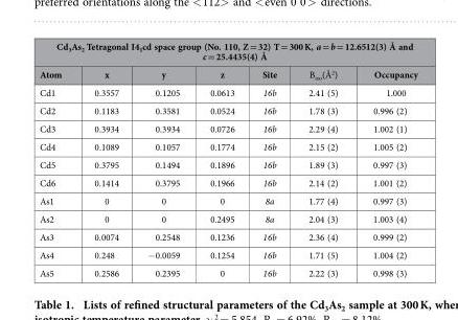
<table><thead><tr><td colspan="7">Cd<sub>3</sub>As<sub>2</sub> Tetragonal I4<sub>1</sub>cd space group (No. 110, Z = 32) T = 300 K, a = b = 12.6512(3) Å and c = 25.4435(4) Å</td></tr><tr><td>Atom</td><td>x</td><td>y</td><td>z</td><td>Site</td><td>B<sub>iso</sub>(Å<sup>2</sup>)</td><td>Occupancy</td></tr></thead><tbody><tr><td>Cd1</td><td>0.3557</td><td>0.1205</td><td>0.0613</td><td>16b</td><td>2.41 (5)</td><td>1.000</td></tr><tr><td>Cd2</td><td>0.1183</td><td>0.3581</td><td>0.0524</td><td>16b</td><td>1.78 (3)</td><td>0.996 (2)</td></tr><tr><td>Cd3</td><td>0.3934</td><td>0.3934</td><td>0.0726</td><td>16b</td><td>2.29 (4)</td><td>1.002 (1)</td></tr><tr><td>Cd4</td><td>0.1089</td><td>0.1057</td><td>0.1774</td><td>16b</td><td>2.15 (2)</td><td>1.005 (2)</td></tr><tr><td>Cd5</td><td>0.3795</td><td>0.1494</td><td>0.1896</td><td>16b</td><td>1.89 (3)</td><td>0.997 (3)</td></tr><tr><td>Cd6</td><td>0.1414</td><td>0.3795</td><td>0.1966</td><td>16b</td><td>2.14 (2)</td><td>1.001 (2)</td></tr><tr><td>As1</td><td>0</td><td>0</td><td>0</td><td>8a</td><td>1.77 (4)</td><td>0.997 (3)</td></tr><tr><td>As2</td><td>0</td><td>0</td><td>0.2495</td><td>8a</td><td>2.04 (3)</td><td>1.003 (4)</td></tr><tr><td>As3</td><td>0.0074</td><td>0.2548</td><td>0.1236</td><td>16b</td><td>2.36 (4)</td><td>0.999 (2)</td></tr><tr><td>As4</td><td>0.248</td><td>− 0.0059</td><td>0.1254</td><td>16b</td><td>1.71 (5)</td><td>1.004 (2)</td></tr><tr><td>As5</td><td>0.2586</td><td>0.2395</td><td>0</td><td>16b</td><td>2.22 (3)</td><td>0.998 (3)</td></tr></tbody></table>